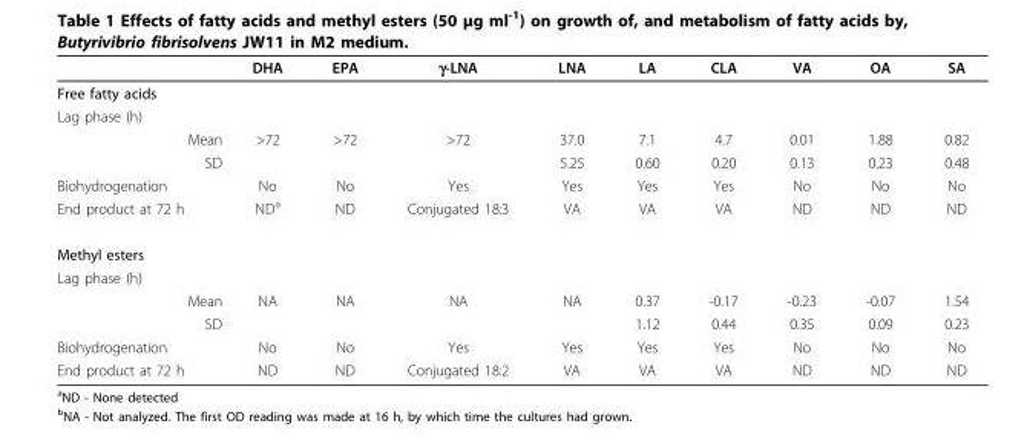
<table><thead><tr><td></td><td>DHA</td><td>EPA</td><td>γ-LNA</td><td>LNA</td><td>LA</td><td>CLA</td><td>VA</td><td>OA</td><td>SA</td></tr></thead><tbody><tr><td colspan="10">Free fatty acids</td></tr><tr><td colspan="10">Lag phase (h)</td></tr><tr><td>Mean</td><td>&gt;72</td><td>&gt;72</td><td>&gt;72</td><td>37.0</td><td>7.1</td><td>4.7</td><td>0.01</td><td>1.88</td><td>0.82</td></tr><tr><td>SD</td><td></td><td></td><td></td><td>5.25</td><td>0.60</td><td>0.20</td><td>0.13</td><td>0.23</td><td>0.48</td></tr><tr><td>Biohydrogenation</td><td>No</td><td>No</td><td>Yes</td><td>Yes</td><td>Yes</td><td>Yes</td><td>No</td><td>No</td><td>No</td></tr><tr><td>End product at 72 h</td><td>ND<sup>a</sup></td><td>ND</td><td>Conjugated 18:3</td><td>VA</td><td>VA</td><td>VA</td><td>ND</td><td>ND</td><td>ND</td></tr><tr><td colspan="10">Methyl esters</td></tr><tr><td colspan="10">Lag phase (h)</td></tr><tr><td>Mean</td><td>NA</td><td>NA</td><td>NA</td><td>NA</td><td>0.37</td><td>-0.17</td><td>-0.23</td><td>-0.07</td><td>1.54</td></tr><tr><td>SD</td><td></td><td></td><td></td><td></td><td>1.12</td><td>0.44</td><td>0.35</td><td>0.09</td><td>0.23</td></tr><tr><td>Biohydrogenation</td><td>No</td><td>No</td><td>Yes</td><td>Yes</td><td>Yes</td><td>Yes</td><td>No</td><td>No</td><td>No</td></tr><tr><td>End product at 72 h</td><td>ND</td><td>ND</td><td>Conjugated 18:2</td><td>VA</td><td>VA</td><td>VA</td><td>ND</td><td>ND</td><td>ND</td></tr></tbody></table>